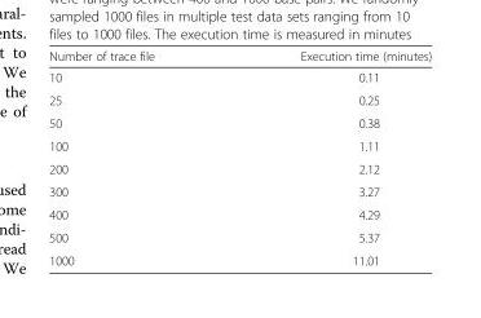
<table><thead><tr><td>Number of trace file</td><td>Execution time (minutes)</td></tr></thead><tbody><tr><td>10</td><td>0.11</td></tr><tr><td>25</td><td>0.25</td></tr><tr><td>50</td><td>0.38</td></tr><tr><td>100</td><td>1.11</td></tr><tr><td>200</td><td>2.12</td></tr><tr><td>300</td><td>3.27</td></tr><tr><td>400</td><td>4.29</td></tr><tr><td>500</td><td>5.37</td></tr><tr><td>1000</td><td>11.01</td></tr></tbody></table>